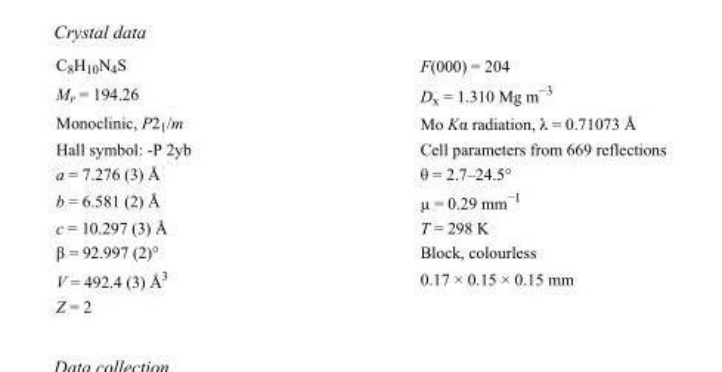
<table><tbody><tr><td>C<sub>8</sub>H<sub>10</sub>N<sub>4</sub>S</td><td>F(000) = 204</td></tr><tr><td>M<sub>r</sub> = 194.26</td><td>D<sub>x</sub> = 1.310 Mg m<sup>−3</sup></td></tr><tr><td>Monoclinic, P2<sub>1</sub>/m</td><td>Mo Kα radiation, λ = 0.71073 Å</td></tr><tr><td>Hall symbol: -P 2yb</td><td>Cell parameters from 669 reflections</td></tr><tr><td>a = 7.276 (3) Å</td><td>θ = 2.7–24.5°</td></tr><tr><td>b = 6.581 (2) Å</td><td>µ = 0.29 mm<sup>−1</sup></td></tr><tr><td>c = 10.297 (3) Å</td><td>T = 298 K</td></tr><tr><td>β = 92.997 (2)°</td><td>Block, colourless</td></tr><tr><td>V = 492.4 (3) Å<sup>3</sup></td><td>0.17 × 0.15 × 0.15 mm</td></tr><tr><td>Z = 2</td><td></td></tr></tbody></table>